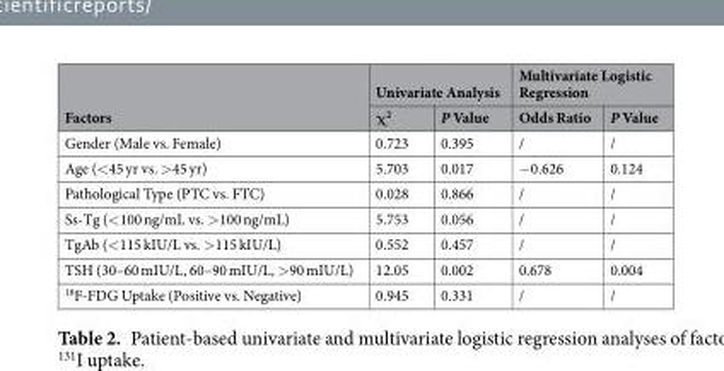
<table><thead><tr><td rowspan="2">Factors</td><td colspan="2">Univariate Analysis</td><td colspan="2">Multivariate Logistic Regression</td></tr><tr><td>χ<sup>2</sup></td><td>P Value</td><td>Odds Ratio</td><td>P Value</td></tr></thead><tbody><tr><td>Gender (Male vs. Female)</td><td>0.723</td><td>0.395</td><td>/</td><td>/</td></tr><tr><td>Age (&lt;45 yr vs. &gt;45 yr)</td><td>5.703</td><td>0.017</td><td>−0.626</td><td>0.124</td></tr><tr><td>Pathological Type (PTC vs. FTC)</td><td>0.028</td><td>0.866</td><td>/</td><td>/</td></tr><tr><td>Ss-Tg (&lt;100 ng/mL vs. &gt;100 ng/mL)</td><td>5.753</td><td>0.056</td><td>/</td><td>/</td></tr><tr><td>TgAb (&lt;115 kIU/L vs. &gt;115 kIU/L)</td><td>0.552</td><td>0.457</td><td>/</td><td>/</td></tr><tr><td>TSH (30–60 mIU/L, 60–90 mIU/L, &gt;90 mIU/L)</td><td>12.05</td><td>0.002</td><td>0.678</td><td>0.004</td></tr><tr><td><sup>18</sup>F-FDG Uptake (Positive vs. Negative)</td><td>0.945</td><td>0.331</td><td>/</td><td>/</td></tr></tbody></table>